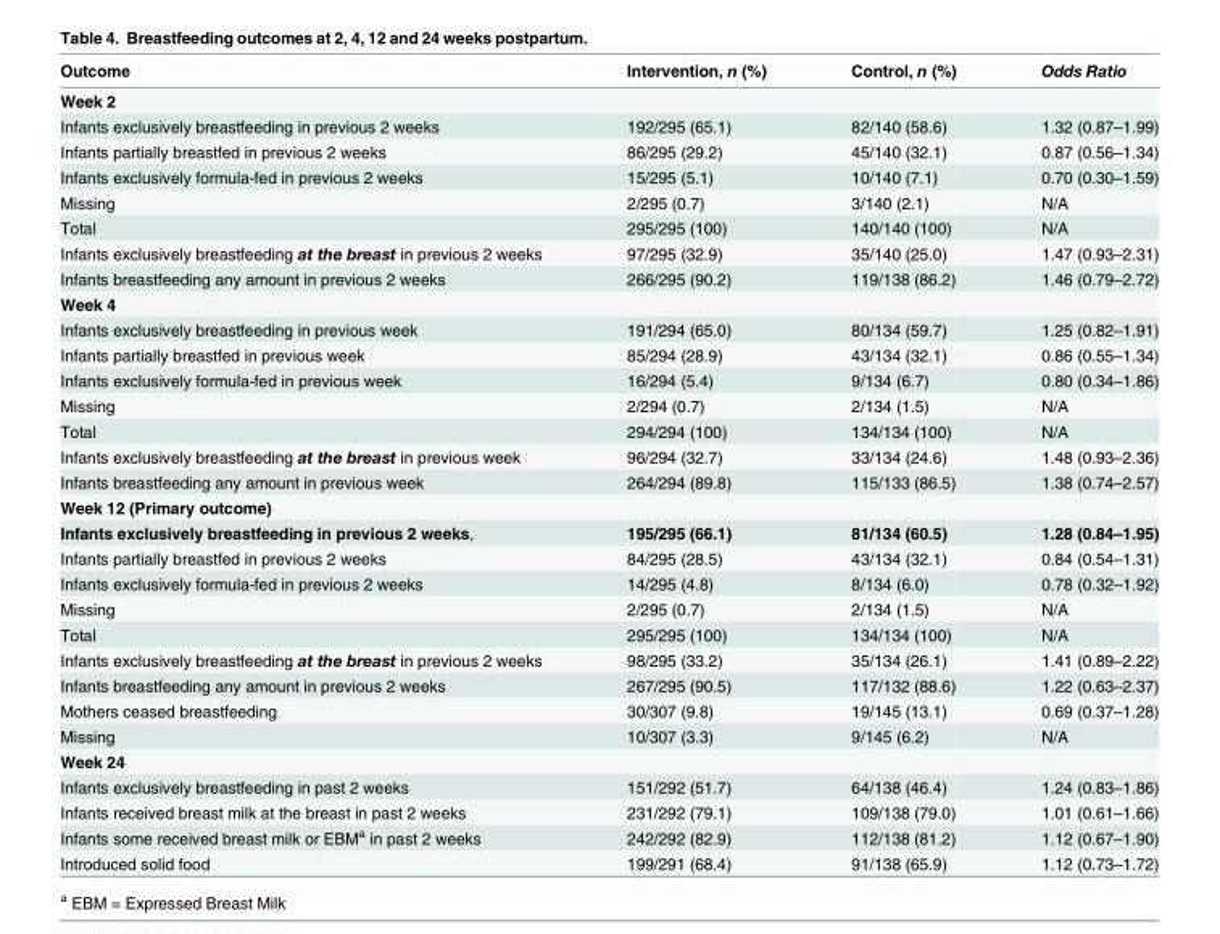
<table><thead><tr><td>Outcome</td><td>Intervention, n (%)</td><td>Control, n (%)</td><td>Odds Ratio</td></tr></thead><tbody><tr><td colspan="4">Week 2</td></tr><tr><td>Infants exclusively breastfeeding in previous 2 weeks</td><td>192/295 (65.1)</td><td>82/140 (58.6)</td><td>1.32 (0.87–1.99)</td></tr><tr><td>Infants partially breastfed in previous 2 weeks</td><td>86/295 (29.2)</td><td>45/140 (32.1)</td><td>0.87 (0.56–1.34)</td></tr><tr><td>Infants exclusively formula-fed in previous 2 weeks</td><td>15/295 (5.1)</td><td>10/140 (7.1)</td><td>0.70 (0.30–1.59)</td></tr><tr><td>Missing</td><td>2/295 (0.7)</td><td>3/140 (2.1)</td><td>N/A</td></tr><tr><td>Total</td><td>295/295 (100)</td><td>140/140 (100)</td><td>N/A</td></tr><tr><td>Infants exclusively breastfeeding at the breast in previous 2 weeks</td><td>97/295 (32.9)</td><td>35/140 (25.0)</td><td>1.47 (0.93–2.31)</td></tr><tr><td>Infants breastfeeding any amount in previous 2 weeks</td><td>266/295 (90.2)</td><td>119/138 (86.2)</td><td>1.46 (0.79–2.72)</td></tr><tr><td colspan="4">Week 4</td></tr><tr><td>Infants exclusively breastfeeding in previous week</td><td>191/294 (65.0)</td><td>80/134 (59.7)</td><td>1.25 (0.82–1.91)</td></tr><tr><td>Infants partially breastfed in previous week</td><td>85/294 (28.9)</td><td>43/134 (32.1)</td><td>0.86 (0.55–1.34)</td></tr><tr><td>Infants exclusively formula-fed in previous week</td><td>16/294 (5.4)</td><td>9/134 (6.7)</td><td>0.80 (0.34–1.86)</td></tr><tr><td>Missing</td><td>2/294 (0.7)</td><td>2/134 (1.5)</td><td>N/A</td></tr><tr><td>Total</td><td>294/294 (100)</td><td>134/134 (100)</td><td>N/A</td></tr><tr><td>Infants exclusively breastfeeding at the breast in previous week</td><td>96/294 (32.7)</td><td>33/134 (24.6)</td><td>1.48 (0.93–2.36)</td></tr><tr><td>Infants breastfeeding any amount in previous week</td><td>264/294 (89.8)</td><td>115/133 (86.5)</td><td>1.38 (0.74–2.57)</td></tr><tr><td colspan="4">Week 12 (Primary outcome)</td></tr><tr><td>Infants exclusively breastfeeding in previous 2 weeks,</td><td>195/295 (66.1)</td><td>81/134 (60.5)</td><td>1.28 (0.84–1.95)</td></tr><tr><td>Infants partially breastfed in previous 2 weeks</td><td>84/295 (28.5)</td><td>43/134 (32.1)</td><td>0.84 (0.54–1.31)</td></tr><tr><td>Infants exclusively formula-fed in previous 2 weeks</td><td>14/295 (4.8)</td><td>8/134 (6.0)</td><td>0.78 (0.32–1.92)</td></tr><tr><td>Missing</td><td>2/295 (0.7)</td><td>2/134 (1.5)</td><td>N/A</td></tr><tr><td>Total</td><td>295/295 (100)</td><td>134/134 (100)</td><td>N/A</td></tr><tr><td>Infants exclusively breastfeeding at the breast in previous 2 weeks</td><td>98/295 (33.2)</td><td>35/134 (26.1)</td><td>1.41 (0.89–2.22)</td></tr><tr><td>Infants breastfeeding any amount in previous 2 weeks</td><td>267/295 (90.5)</td><td>117/132 (88.6)</td><td>1.22 (0.63–2.37)</td></tr><tr><td>Mothers ceased breastfeeding</td><td>30/307 (9.8)</td><td>19/145 (13.1)</td><td>0.69 (0.37–1.28)</td></tr><tr><td>Missing</td><td>10/307 (3.3)</td><td>9/145 (6.2)</td><td>N/A</td></tr><tr><td colspan="4">Week 24</td></tr><tr><td>Infants exclusively breastfeeding in past 2 weeks</td><td>151/292 (51.7)</td><td>64/138 (46.4)</td><td>1.24 (0.83–1.86)</td></tr><tr><td>Infants received breast milk at the breast in past 2 weeks</td><td>231/292 (79.1)</td><td>109/138 (79.0)</td><td>1.01 (0.61–1.66)</td></tr><tr><td>Infants some received breast milk or EBM<sup>a</sup> in past 2 weeks</td><td>242/292 (82.9)</td><td>112/138 (81.2)</td><td>1.12 (0.67–1.90)</td></tr><tr><td>Introduced solid food</td><td>199/291 (68.4)</td><td>91/138 (65.9)</td><td>1.12 (0.73–1.72)</td></tr></tbody></table>